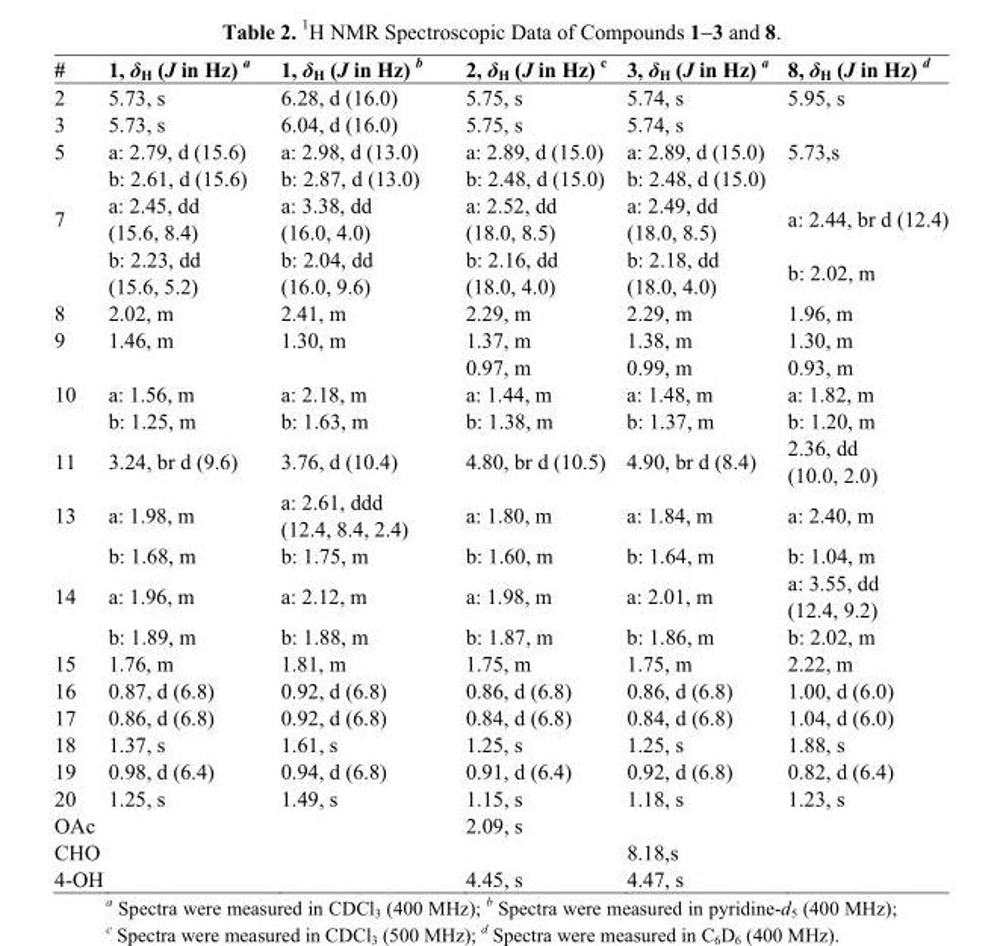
<table><thead><tr><td>#</td><td>1, δ<sub>H</sub> (J in Hz) a</td><td>1, δ<sub>H</sub> (J in Hz) b</td><td>2, δ<sub>H</sub> (J in Hz) c</td><td>3, δ<sub>H</sub> (J in Hz) a</td><td>8, δ<sub>H</sub> (J in Hz) d</td></tr></thead><tbody><tr><td>2</td><td>5.73, s</td><td>6.28, d (16.0)</td><td>5.75, s</td><td>5.74, s</td><td>5.95, s</td></tr><tr><td>3</td><td>5.73, s</td><td>6.04, d (16.0)</td><td>5.75, s</td><td>5.74, s</td><td></td></tr><tr><td rowspan="2">5</td><td>a: 2.79, d (15.6)</td><td>a: 2.98, d (13.0)</td><td>a: 2.89, d (15.0)</td><td>a: 2.89, d (15.0)</td><td>5.73,s</td></tr><tr><td>b: 2.61, d (15.6)</td><td>b: 2.87, d (13.0)</td><td>b: 2.48, d (15.0)</td><td>b: 2.48, d (15.0)</td><td></td></tr><tr><td rowspan="2">7</td><td>a: 2.45, dd (15.6, 8.4)</td><td>a: 3.38, dd (16.0, 4.0)</td><td>a: 2.52, dd (18.0, 8.5)</td><td>a: 2.49, dd (18.0, 8.5)</td><td>a: 2.44, br d (12.4)</td></tr><tr><td>b: 2.23, dd (15.6, 5.2)</td><td>b: 2.04, dd (16.0, 9.6)</td><td>b: 2.16, dd (18.0, 4.0)</td><td>b: 2.18, dd (18.0, 4.0)</td><td>b: 2.02, m</td></tr><tr><td>8</td><td>2.02, m</td><td>2.41, m</td><td>2.29, m</td><td>2.29, m</td><td>1.96, m</td></tr><tr><td rowspan="2">9</td><td>1.46, m</td><td>1.30, m</td><td>1.37, m</td><td>1.38, m</td><td>1.30, m</td></tr><tr><td></td><td></td><td>0.97, m</td><td>0.99, m</td><td>0.93, m</td></tr><tr><td rowspan="2">10</td><td>a: 1.56, m</td><td>a: 2.18, m</td><td>a: 1.44, m</td><td>a: 1.48, m</td><td>a: 1.82, m</td></tr><tr><td>b: 1.25, m</td><td>b: 1.63, m</td><td>b: 1.38, m</td><td>b: 1.37, m</td><td>b: 1.20, m</td></tr><tr><td>11</td><td>3.24, br d (9.6)</td><td>3.76, d (10.4)</td><td>4.80, br d (10.5)</td><td>4.90, br d (8.4)</td><td>2.36, dd (10.0, 2.0)</td></tr><tr><td rowspan="2">13</td><td>a: 1.98, m</td><td>a: 2.61, ddd (12.4, 8.4, 2.4)</td><td>a: 1.80, m</td><td>a: 1.84, m</td><td>a: 2.40, m</td></tr><tr><td>b: 1.68, m</td><td>b: 1.75, m</td><td>b: 1.60, m</td><td>b: 1.64, m</td><td>b: 1.04, m</td></tr><tr><td rowspan="2">14</td><td>a: 1.96, m</td><td>a: 2.12, m</td><td>a: 1.98, m</td><td>a: 2.01, m</td><td>a: 3.55, dd (12.4, 9.2)</td></tr><tr><td>b: 1.89, m</td><td>b: 1.88, m</td><td>b: 1.87, m</td><td>b: 1.86, m</td><td>b: 2.02, m</td></tr><tr><td>15</td><td>1.76, m</td><td>1.81, m</td><td>1.75, m</td><td>1.75, m</td><td>2.22, m</td></tr><tr><td>16</td><td>0.87, d (6.8)</td><td>0.92, d (6.8)</td><td>0.86, d (6.8)</td><td>0.86, d (6.8)</td><td>1.00, d (6.0)</td></tr><tr><td>17</td><td>0.86, d (6.8)</td><td>0.92, d (6.8)</td><td>0.84, d (6.8)</td><td>0.84, d (6.8)</td><td>1.04, d (6.0)</td></tr><tr><td>18</td><td>1.37, s</td><td>1.61, s</td><td>1.25, s</td><td>1.25, s</td><td>1.88, s</td></tr><tr><td>19</td><td>0.98, d (6.4)</td><td>0.94, d (6.8)</td><td>0.91, d (6.4)</td><td>0.92, d (6.8)</td><td>0.82, d (6.4)</td></tr><tr><td>20</td><td>1.25, s</td><td>1.49, s</td><td>1.15, s</td><td>1.18, s</td><td>1.23, s</td></tr><tr><td>OAc</td><td></td><td></td><td>2.09, s</td><td></td><td></td></tr><tr><td>CHO</td><td></td><td></td><td></td><td>8.18,s</td><td></td></tr><tr><td>4-OH</td><td></td><td></td><td>4.45, s</td><td>4.47, s</td><td></td></tr></tbody></table>